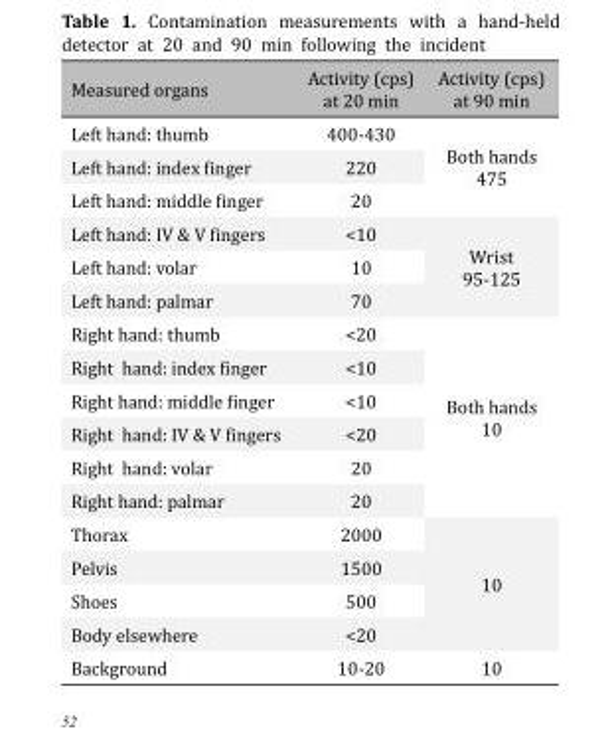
<table><thead><tr><td>Measured organs</td><td>Activity (cps) at 20 min</td><td>Activity (cps) at 90 min</td></tr></thead><tbody><tr><td>Left hand: thumb</td><td>400-430</td><td rowspan="3">Both hands 475</td></tr><tr><td>Left hand: index finger</td><td>220</td></tr><tr><td>Left hand: middle finger</td><td>20</td></tr><tr><td>Left hand: IV &amp; V fingers</td><td>&lt;10</td><td rowspan="3">Wrist 95-125</td></tr><tr><td>Left hand: volar</td><td>10</td></tr><tr><td>Left hand: palmar</td><td>70</td></tr><tr><td>Right hand: thumb</td><td>&lt;20</td><td rowspan="6">Both hands 10</td></tr><tr><td>Right hand: index finger</td><td>&lt;10</td></tr><tr><td>Right hand: middle finger</td><td>&lt;10</td></tr><tr><td>Right hand: IV &amp; V fingers</td><td>&lt;20</td></tr><tr><td>Right hand: volar</td><td>20</td></tr><tr><td>Right hand: palmar</td><td>20</td></tr><tr><td>Thorax</td><td>2000</td><td></td></tr><tr><td>Pelvis</td><td>1500</td><td rowspan="3">10</td></tr><tr><td>Shoes</td><td>500</td></tr><tr><td>Body elsewhere</td><td>&lt;20</td></tr><tr><td>Background</td><td>10-20</td><td>10</td></tr></tbody></table>